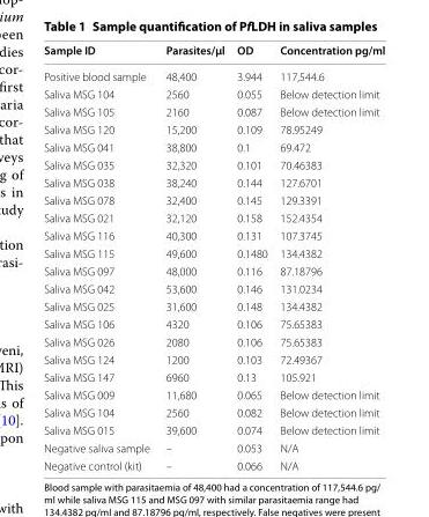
<table><thead><tr><td>Sample ID</td><td>Parasites/µl</td><td>OD</td><td>Concentration pg/ml</td></tr></thead><tbody><tr><td>Positive blood sample</td><td>48,400</td><td>3.944</td><td>117,544.6</td></tr><tr><td>Saliva MSG 104</td><td>2560</td><td>0.055</td><td>Below detection limit</td></tr><tr><td>Saliva MSG 105</td><td>2160</td><td>0.087</td><td>Below detection limit</td></tr><tr><td>Saliva MSG 120</td><td>15,200</td><td>0.109</td><td>78.95249</td></tr><tr><td>Saliva MSG 041</td><td>38,800</td><td>0.1</td><td>69.472</td></tr><tr><td>Saliva MSG 035</td><td>32,320</td><td>0.101</td><td>70.46383</td></tr><tr><td>Saliva MSG 038</td><td>38,240</td><td>0.144</td><td>127.6701</td></tr><tr><td>Saliva MSG 078</td><td>32,400</td><td>0.145</td><td>129.3391</td></tr><tr><td>Saliva MSG 021</td><td>32,120</td><td>0.158</td><td>152.4354</td></tr><tr><td>Saliva MSG 116</td><td>40,300</td><td>0.131</td><td>107.3745</td></tr><tr><td>Saliva MSG 115</td><td>49,600</td><td>0.1480</td><td>134.4382</td></tr><tr><td>Saliva MSG 097</td><td>48,000</td><td>0.116</td><td>87.18796</td></tr><tr><td>Saliva MSG 042</td><td>53,600</td><td>0.146</td><td>131.0234</td></tr><tr><td>Saliva MSG 025</td><td>31,600</td><td>0.148</td><td>134.4382</td></tr><tr><td>Saliva MSG 106</td><td>4320</td><td>0.106</td><td>75.65383</td></tr><tr><td>Saliva MSG 026</td><td>2080</td><td>0.106</td><td>75.65383</td></tr><tr><td>Saliva MSG 124</td><td>1200</td><td>0.103</td><td>72.49367</td></tr><tr><td>Saliva MSG 147</td><td>6960</td><td>0.13</td><td>105.921</td></tr><tr><td>Saliva MSG 009</td><td>11,680</td><td>0.065</td><td>Below detection limit</td></tr><tr><td>Saliva MSG 104</td><td>2560</td><td>0.082</td><td>Below detection limit</td></tr><tr><td>Saliva MSG 015</td><td>39,600</td><td>0.074</td><td>Below detection limit</td></tr><tr><td>Negative saliva sample</td><td>–</td><td>0.053</td><td>N/A</td></tr><tr><td>Negative control (kit)</td><td>–</td><td>0.066</td><td>N/A</td></tr></tbody></table>